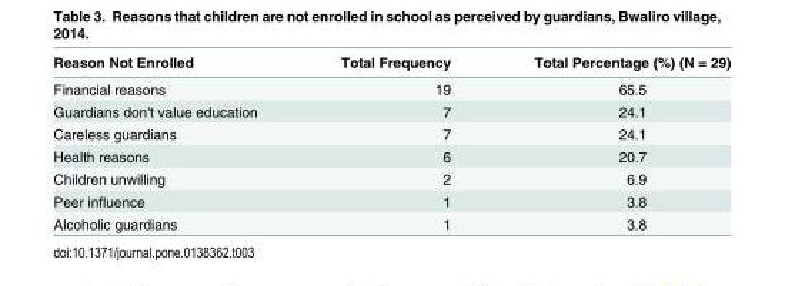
<table><thead><tr><td>Reason Not Enrolled</td><td>Total Frequency</td><td>Total Percentage (%) (N = 29)</td></tr></thead><tbody><tr><td>Financial reasons</td><td>19</td><td>65.5</td></tr><tr><td>Guardians don&#x27;t value education</td><td>7</td><td>24.1</td></tr><tr><td>Careless guardians</td><td>7</td><td>24.1</td></tr><tr><td>Health reasons</td><td>6</td><td>20.7</td></tr><tr><td>Children unwilling</td><td>2</td><td>6.9</td></tr><tr><td>Peer influence</td><td>1</td><td>3.8</td></tr><tr><td>Alcoholic guardians</td><td>1</td><td>3.8</td></tr></tbody></table>